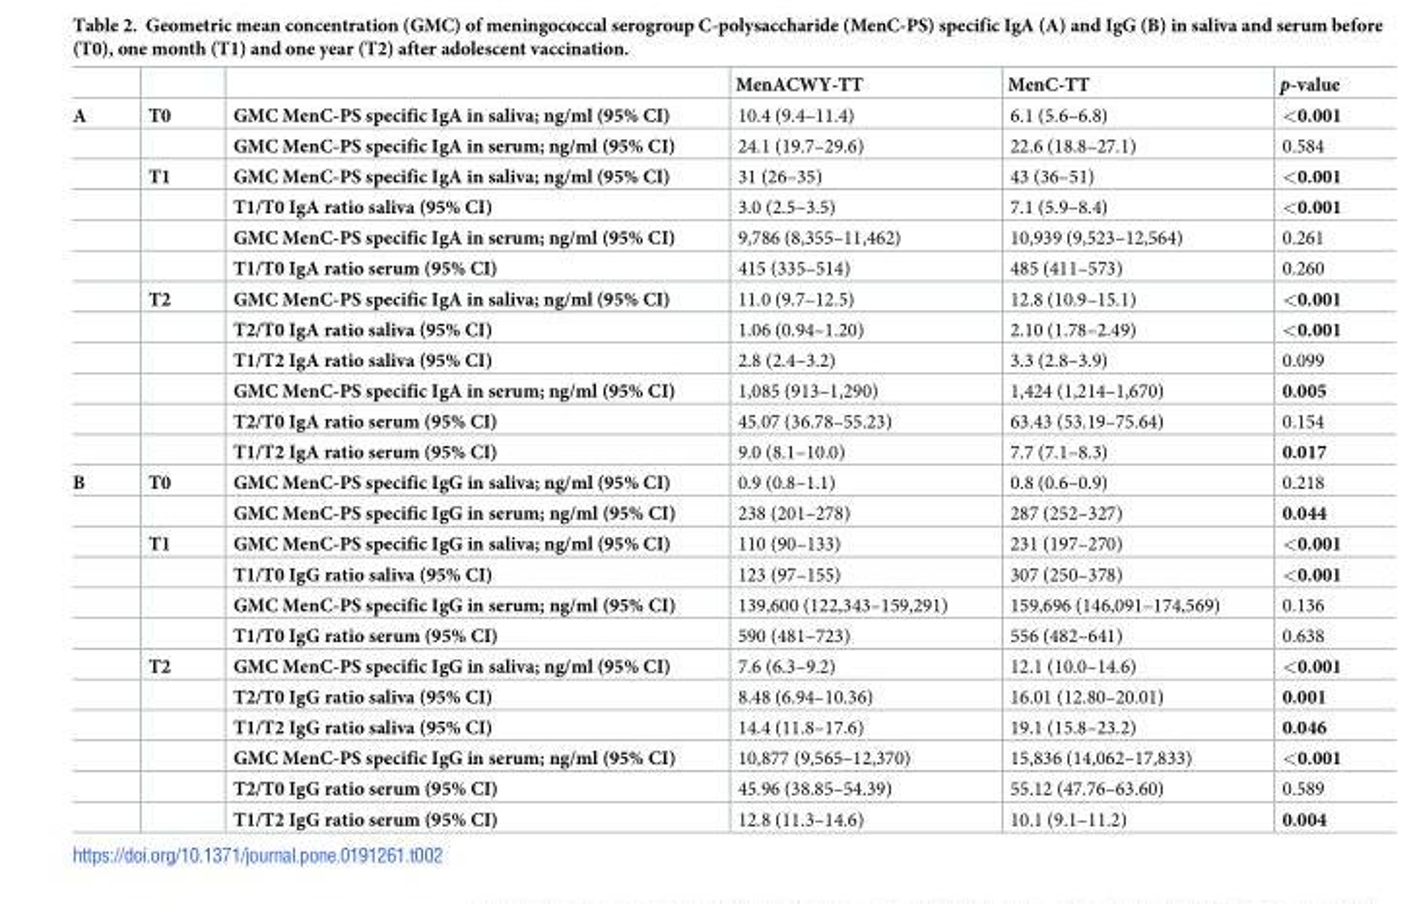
<table><thead><tr><td></td><td></td><td></td><td>MenACWY-TT</td><td>MenC-TT</td><td>p-value</td></tr></thead><tbody><tr><td rowspan="12">A</td><td>T0</td><td>GMC MenC-PS specific IgA in saliva; ng/ml (95% CI)</td><td>10.4 (9.4–11.4)</td><td>6.1 (5.6–6.8)</td><td>&lt;0.001</td></tr><tr><td></td><td>GMC MenC-PS specific IgA in serum; ng/ml (95% CI)</td><td>24.1 (19.7–29.6)</td><td>22.6 (18.8–27.1)</td><td>0.584</td></tr><tr><td>T1</td><td>GMC MenC-PS specific IgA in saliva; ng/ml (95% CI)</td><td>31 (26–35)</td><td>43 (36–51)</td><td>&lt;0.001</td></tr><tr><td></td><td>T1/T0 IgA ratio saliva (95% CI)</td><td>3.0 (2.5–3.5)</td><td>7.1 (5.9–8.4)</td><td>&lt;0.001</td></tr><tr><td></td><td>GMC MenC-PS specific IgA in serum; ng/ml (95% CI)</td><td>9,786 (8,355–11,462)</td><td>10,939 (9,523–12,564)</td><td>0.261</td></tr><tr><td></td><td>T1/T0 IgA ratio serum (95% CI)</td><td>415 (335–514)</td><td>485 (411–573)</td><td>0.260</td></tr><tr><td>T2</td><td>GMC MenC-PS specific IgA in saliva; ng/ml (95% CI)</td><td>11.0 (9.7–12.5)</td><td>12.8 (10.9–15.1)</td><td>&lt;0.001</td></tr><tr><td></td><td>T2/T0 IgA ratio saliva (95% CI)</td><td>1.06 (0.94–1.20)</td><td>2.10 (1.78–2.49)</td><td>&lt;0.001</td></tr><tr><td></td><td>T1/T2 IgA ratio saliva (95% CI)</td><td>2.8 (2.4–3.2)</td><td>3.3 (2.8–3.9)</td><td>0.099</td></tr><tr><td></td><td>GMC MenC-PS specific IgA in serum; ng/ml (95% CI)</td><td>1,085 (913–1,290)</td><td>1,424 (1,214–1,670)</td><td>0.005</td></tr><tr><td></td><td>T2/T0 IgA ratio serum (95% CI)</td><td>45.07 (36.78–55.23)</td><td>63.43 (53.19–75.64)</td><td>0.154</td></tr><tr><td></td><td>T1/T2 IgA ratio serum (95% CI)</td><td>9.0 (8.1–10.0)</td><td>7.7 (7.1–8.3)</td><td>0.017</td></tr><tr><td rowspan="12">B</td><td>T0</td><td>GMC MenC-PS specific IgG in saliva; ng/ml (95% CI)</td><td>0.9 (0.8–1.1)</td><td>0.8 (0.6–0.9)</td><td>0.218</td></tr><tr><td></td><td>GMC MenC-PS specific IgG in serum; ng/ml (95% CI)</td><td>238 (201–278)</td><td>287 (252–327)</td><td>0.044</td></tr><tr><td>T1</td><td>GMC MenC-PS specific IgG in saliva; ng/ml (95% CI)</td><td>110 (90–133)</td><td>231 (197–270)</td><td>&lt;0.001</td></tr><tr><td></td><td>T1/T0 IgG ratio saliva (95% CI)</td><td>123 (97–155)</td><td>307 (250–378)</td><td>&lt;0.001</td></tr><tr><td></td><td>GMC MenC-PS specific IgG in serum; ng/ml (95% CI)</td><td>139,600 (122,343–159,291)</td><td>159,696 (146,091–174,569)</td><td>0.136</td></tr><tr><td></td><td>T1/T0 IgG ratio serum (95% CI)</td><td>590 (481–723)</td><td>556 (482–641)</td><td>0.638</td></tr><tr><td>T2</td><td>GMC MenC-PS specific IgG in saliva; ng/ml (95% CI)</td><td>7.6 (6.3–9.2)</td><td>12.1 (10.0–14.6)</td><td>&lt;0.001</td></tr><tr><td></td><td>T2/T0 IgG ratio saliva (95% CI)</td><td>8.48 (6.94–10.36)</td><td>16.01 (12.80–20.01)</td><td>0.001</td></tr><tr><td></td><td>T1/T2 IgG ratio saliva (95% CI)</td><td>14.4 (11.8–17.6)</td><td>19.1 (15.8–23.2)</td><td>0.046</td></tr><tr><td></td><td>GMC MenC-PS specific IgG in serum; ng/ml (95% CI)</td><td>10,877 (9,565–12,370)</td><td>15,836 (14,062–17,833)</td><td>&lt;0.001</td></tr><tr><td></td><td>T2/T0 IgG ratio serum (95% CI)</td><td>45.96 (38.85–54.39)</td><td>55.12 (47.76–63.60)</td><td>0.589</td></tr><tr><td></td><td>T1/T2 IgG ratio serum (95% CI)</td><td>12.8 (11.3–14.6)</td><td>10.1 (9.1–11.2)</td><td>0.004</td></tr></tbody></table>